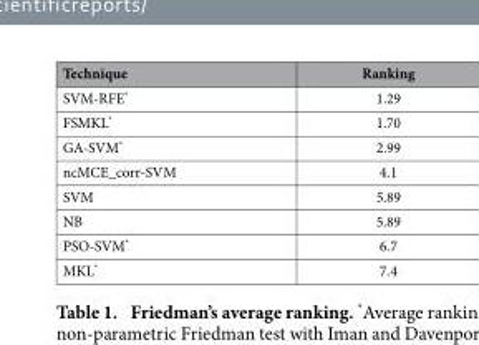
<table><thead><tr><td>Technique</td><td>Ranking</td></tr></thead><tbody><tr><td>SVM-RFE*</td><td>1.29</td></tr><tr><td>FSMKL*</td><td>1.70</td></tr><tr><td>GA-SVM*</td><td>2.99</td></tr><tr><td>ncMCE_corr-SVM</td><td>4.1</td></tr><tr><td>SVM</td><td>5.89</td></tr><tr><td>NB</td><td>5.89</td></tr><tr><td>PSO-SVM*</td><td>6.7</td></tr><tr><td>MKL*</td><td>7.4</td></tr></tbody></table>